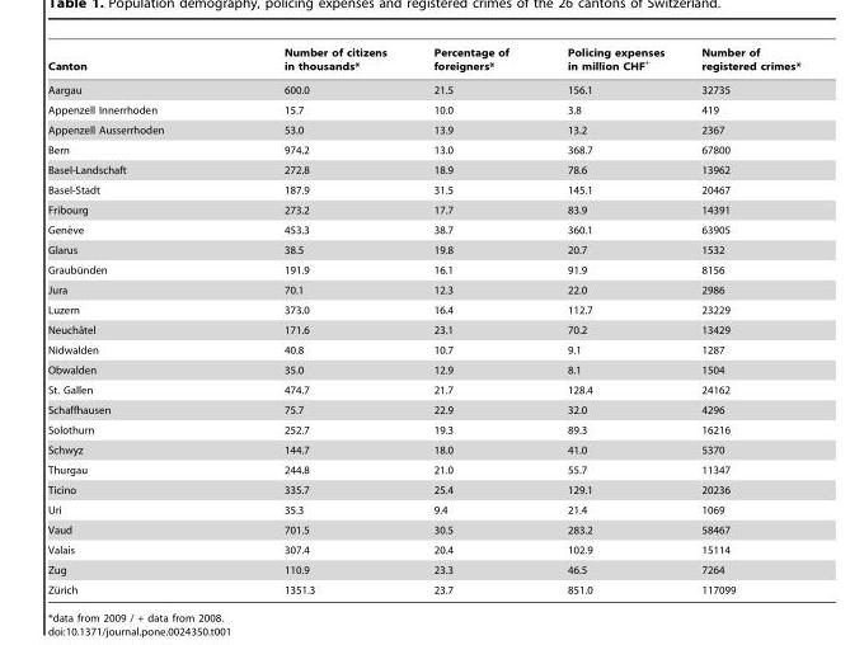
<table><thead><tr><td>Canton</td><td>Number of citizens in thousands*</td><td>Percentage of foreigners*</td><td>Policing expenses in million CHF<sup>+</sup></td><td>Number of registered crimes*</td></tr></thead><tbody><tr><td>Aargau</td><td>600.0</td><td>21.5</td><td>156.1</td><td>32735</td></tr><tr><td>Appenzell Innerrhoden</td><td>15.7</td><td>10.0</td><td>3.8</td><td>419</td></tr><tr><td>Appenzell Ausserrhoden</td><td>53.0</td><td>13.9</td><td>13.2</td><td>2367</td></tr><tr><td>Bern</td><td>974.2</td><td>13.0</td><td>368.7</td><td>67800</td></tr><tr><td>Basel-Landschaft</td><td>272.8</td><td>18.9</td><td>78.6</td><td>13962</td></tr><tr><td>Basel-Stadt</td><td>187.9</td><td>31.5</td><td>145.1</td><td>20467</td></tr><tr><td>Fribourg</td><td>273.2</td><td>17.7</td><td>83.9</td><td>14391</td></tr><tr><td>Gene`ve</td><td>453.3</td><td>38.7</td><td>360.1</td><td>63905</td></tr><tr><td>Glarus</td><td>38.5</td><td>19.8</td><td>20.7</td><td>1532</td></tr><tr><td>Graubu¨nden</td><td>191.9</td><td>16.1</td><td>91.9</td><td>8156</td></tr><tr><td>Jura</td><td>70.1</td><td>12.3</td><td>22.0</td><td>2986</td></tr><tr><td>Luzern</td><td>373.0</td><td>16.4</td><td>112.7</td><td>23229</td></tr><tr><td>Neuchaˆtel</td><td>171.6</td><td>23.1</td><td>70.2</td><td>13429</td></tr><tr><td>Nidwalden</td><td>40.8</td><td>10.7</td><td>9.1</td><td>1287</td></tr><tr><td>Obwalden</td><td>35.0</td><td>12.9</td><td>8.1</td><td>1504</td></tr><tr><td>St. Gallen</td><td>474.7</td><td>21.7</td><td>128.4</td><td>24162</td></tr><tr><td>Schaffhausen</td><td>75.7</td><td>22.9</td><td>32.0</td><td>4296</td></tr><tr><td>Solothurn</td><td>252.7</td><td>19.3</td><td>89.3</td><td>16216</td></tr><tr><td>Schwyz</td><td>144.7</td><td>18.0</td><td>41.0</td><td>5370</td></tr><tr><td>Thurgau</td><td>244.8</td><td>21.0</td><td>55.7</td><td>11347</td></tr><tr><td>Ticino</td><td>335.7</td><td>25.4</td><td>129.1</td><td>20236</td></tr><tr><td>Uri</td><td>35.3</td><td>9.4</td><td>21.4</td><td>1069</td></tr><tr><td>Vaud</td><td>701.5</td><td>30.5</td><td>283.2</td><td>58467</td></tr><tr><td>Valais</td><td>307.4</td><td>20.4</td><td>102.9</td><td>15114</td></tr><tr><td>Zug</td><td>110.9</td><td>23.3</td><td>46.5</td><td>7264</td></tr><tr><td>Zu¨rich</td><td>1351.3</td><td>23.7</td><td>851.0</td><td>117099</td></tr></tbody></table>